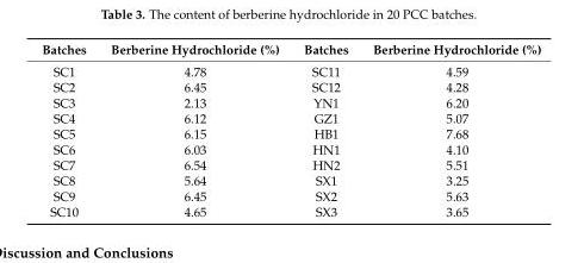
<table><thead><tr><td>Batches</td><td>Berberine Hydrochloride (%)</td><td>Batches</td><td>Berberine Hydrochloride (%)</td></tr></thead><tbody><tr><td>SC1</td><td>4.78</td><td>SC11</td><td>4.59</td></tr><tr><td>SC2</td><td>6.45</td><td>SC12</td><td>4.28</td></tr><tr><td>SC3</td><td>2.13</td><td>YN1</td><td>6.20</td></tr><tr><td>SC4</td><td>6.12</td><td>GZ1</td><td>5.07</td></tr><tr><td>SC5</td><td>6.15</td><td>HB1</td><td>7.68</td></tr><tr><td>SC6</td><td>6.03</td><td>HN1</td><td>4.10</td></tr><tr><td>SC7</td><td>6.54</td><td>HN2</td><td>5.51</td></tr><tr><td>SC8</td><td>5.64</td><td>SX1</td><td>3.25</td></tr><tr><td>SC9</td><td>6.45</td><td>SX2</td><td>5.63</td></tr><tr><td>SC10</td><td>4.65</td><td>SX3</td><td>3.65</td></tr></tbody></table>